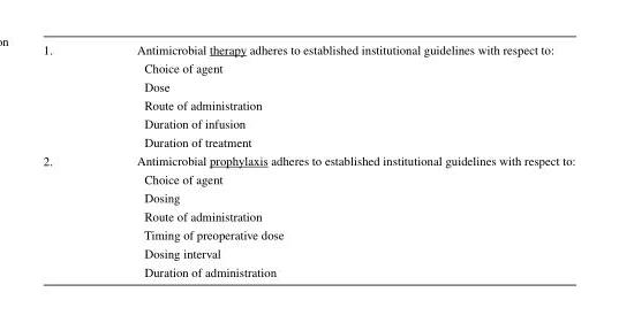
<table><tbody><tr><td rowspan="6">1.</td><td>Antimicrobial therapy adheres to established institutional guidelines with respect to:</td></tr><tr><td>Choice of agent</td></tr><tr><td>Dose</td></tr><tr><td>Route of administration</td></tr><tr><td>Duration of infusion</td></tr><tr><td>Duration of treatment</td></tr><tr><td rowspan="7">2.</td><td>Antimicrobial prophylaxis adheres to established institutional guidelines with respect to:</td></tr><tr><td>Choice of agent</td></tr><tr><td>Dosing</td></tr><tr><td>Route of administration</td></tr><tr><td>Timing of preoperative dose</td></tr><tr><td>Dosing interval</td></tr><tr><td>Duration of administration</td></tr></tbody></table>